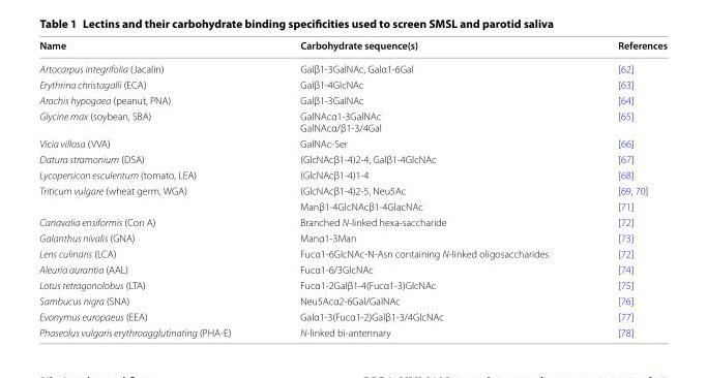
<table><thead><tr><td>Name</td><td>Carbohydrate sequence(s)</td><td>References</td></tr></thead><tbody><tr><td>Artocarpus integrifolia (Jacalin)</td><td>Galβ1-3GalNAc, Galα1-6Gal</td><td>[62]</td></tr><tr><td>Erythrina christagalli (ECA)</td><td>Galβ1-4GlcNAc</td><td>[63]</td></tr><tr><td>Arachis hypogaea (peanut, PNA)</td><td>Galβ1-3GalNAc</td><td>[64]</td></tr><tr><td>Glycine max (soybean, SBA)</td><td>GalNAcα1-3GalNAc GalNAcα/β1-3/4Gal</td><td>[65]</td></tr><tr><td>Vicia villosa (VVA)</td><td>GalNAc-Ser</td><td>[66]</td></tr><tr><td>Datura stramonium (DSA)</td><td>(GlcNAcβ1-4)2-4, Galβ1-4GlcNAc</td><td>[67]</td></tr><tr><td>Lycopersicon esculentum (tomato, LEA)</td><td>(GlcNAcβ1-4)1-4</td><td>[68]</td></tr><tr><td rowspan="2">Triticum vulgare (wheat germ, WGA)</td><td>(GlcNAcβ1-4)2-5, Neu5Ac</td><td>[69, 70]</td></tr><tr><td>Manβ1-4GlcNAcβ1-4GlacNAc</td><td>[71]</td></tr><tr><td>Canavalia ensiformis (Con A)</td><td>Branched N-linked hexa-saccharide</td><td>[72]</td></tr><tr><td>Galanthus nivalis (GNA)</td><td>Manα1-3Man</td><td>[73]</td></tr><tr><td>Lens culinaris (LCA)</td><td>Fucα1-6GlcNAc-N-Asn containing N-linked oligosaccharides</td><td>[72]</td></tr><tr><td>Aleuria aurantia (AAL)</td><td>Fucα1-6/3GlcNAc</td><td>[74]</td></tr><tr><td>Lotus tetragonolobus (LTA)</td><td>Fucα1-2Galβ1-4(Fucα1-3)GlcNAc</td><td>[75]</td></tr><tr><td>Sambucus nigra (SNA)</td><td>Neu5Acα2-6Gal/GalNAc</td><td>[76]</td></tr><tr><td>Evonymus europaeus (EEA)</td><td>Galα1-3(Fucα1-2)Galβ1-3/4GlcNAc</td><td>[77]</td></tr><tr><td>Phaseolus vulgaris erythroagglutinating (PHA-E)</td><td>N-linked bi-antennary</td><td>[78]</td></tr></tbody></table>